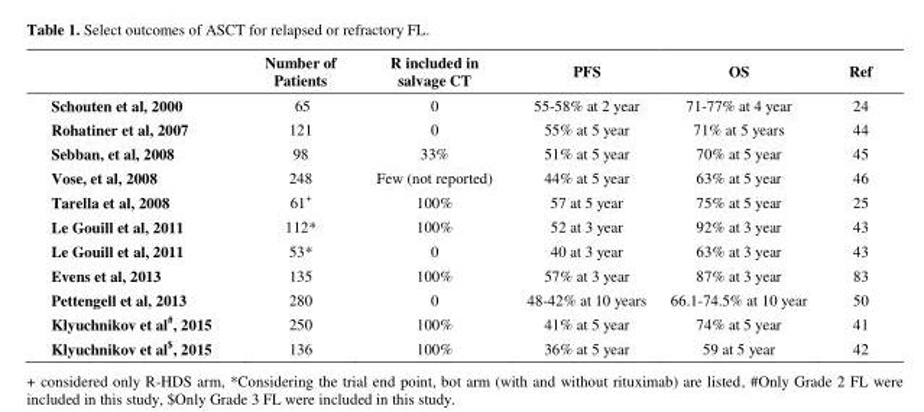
<table><thead><tr><td></td><td>Number of Patients</td><td>R included in salvage CT</td><td>PFS</td><td>OS</td><td>Ref</td></tr></thead><tbody><tr><td>Schouten et al, 2000</td><td>65</td><td>0</td><td>55-58% at 2 year</td><td>71-77% at 4 year</td><td>24</td></tr><tr><td>Rohatiner et al, 2007</td><td>121</td><td>0</td><td>55% at 5 year</td><td>71% at 5 years</td><td>44</td></tr><tr><td>Sebban, et al, 2008</td><td>98</td><td>33%</td><td>51% at 5 year</td><td>70% at 5 year</td><td>45</td></tr><tr><td>Vose, et al, 2008</td><td>248</td><td>Few (not reported)</td><td>44% at 5 year</td><td>63% at 5 year</td><td>46</td></tr><tr><td>Tarella et al, 2008</td><td>61+</td><td>100%</td><td>57 at 5 year</td><td>75% at 5 year</td><td>25</td></tr><tr><td>Le Gouill et al, 2011</td><td>112*</td><td>100%</td><td>52 at 3 year</td><td>92% at 3 year</td><td>43</td></tr><tr><td>Le Gouill et al, 2011</td><td>53*</td><td>0</td><td>40 at 3 year</td><td>63% at 3 year</td><td>43</td></tr><tr><td>Evens et al, 2013</td><td>135</td><td>100%</td><td>57% at 3 year</td><td>87% at 3 year</td><td>83</td></tr><tr><td>Pettengell et al, 2013</td><td>280</td><td>0</td><td>48-42% at 10 years</td><td>66.1-74.5% at 10 year</td><td>50</td></tr><tr><td>Klyuchnikov et al#, 2015</td><td>250</td><td>100%</td><td>41% at 5 year</td><td>74% at 5 year</td><td>41</td></tr><tr><td>Klyuchnikov et al$, 2015</td><td>136</td><td>100%</td><td>36% at 5 year</td><td>59 at 5 year</td><td>42</td></tr></tbody></table>